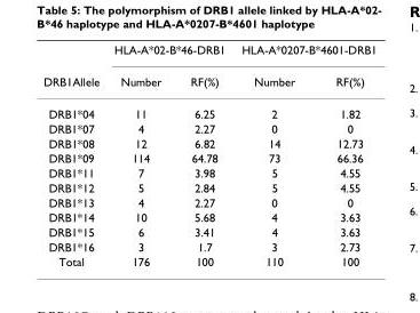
<table><thead><tr><td rowspan="2">DRB1Allele</td><td colspan="2">HLA-A*02-B*46-DRB1</td><td colspan="2">HLA-A*0207-B*4601-DRB1</td></tr><tr><td>Number</td><td>RF(%)</td><td>Number</td><td>RF(%)</td></tr></thead><tbody><tr><td>DRB1*04</td><td>11</td><td>6.25</td><td>2</td><td>1.82</td></tr><tr><td>DRB1*07</td><td>4</td><td>2.27</td><td>0</td><td>0</td></tr><tr><td>DRB1*08</td><td>12</td><td>6.82</td><td>14</td><td>12.73</td></tr><tr><td>DRB1*09</td><td>114</td><td>64.78</td><td>73</td><td>66.36</td></tr><tr><td>DRB1*11</td><td>7</td><td>3.98</td><td>5</td><td>4.55</td></tr><tr><td>DRB1*12</td><td>5</td><td>2.84</td><td>5</td><td>4.55</td></tr><tr><td>DRB1*13</td><td>4</td><td>2.27</td><td>0</td><td>0</td></tr><tr><td>DRB1*14</td><td>10</td><td>5.68</td><td>4</td><td>3.63</td></tr><tr><td>DRB1*15</td><td>6</td><td>3.41</td><td>4</td><td>3.63</td></tr><tr><td>DRB1*16</td><td>3</td><td>1.7</td><td>3</td><td>2.73</td></tr><tr><td>Total</td><td>176</td><td>100</td><td>110</td><td>100</td></tr></tbody></table>